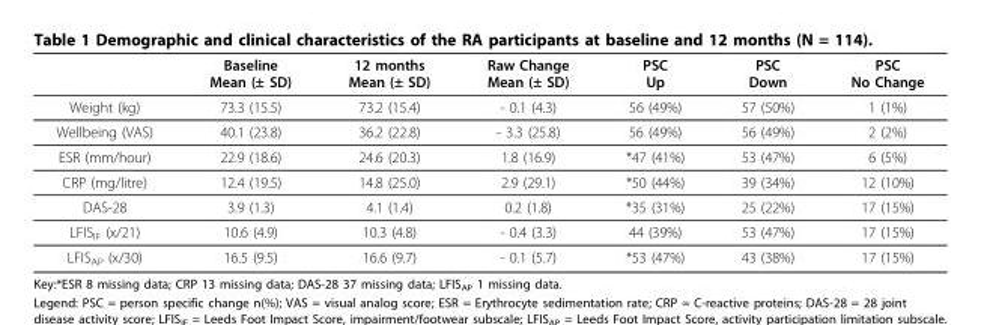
<table><thead><tr><td></td><td>Baseline Mean (± SD)</td><td>12 months Mean (± SD)</td><td>Raw Change Mean (± SD)</td><td>PSC Up</td><td>PSC Down</td><td>PSC No Change</td></tr></thead><tbody><tr><td>Weight (kg)</td><td>73.3 (15.5)</td><td>73.2 (15.4)</td><td>- 0.1 (4.3)</td><td>56 (49%)</td><td>57 (50%)</td><td>1 (1%)</td></tr><tr><td>Wellbeing (VAS)</td><td>40.1 (23.8)</td><td>36.2 (22.8)</td><td>- 3.3 (25.8)</td><td>56 (49%)</td><td>56 (49%)</td><td>2 (2%)</td></tr><tr><td>ESR (mm/hour)</td><td>22.9 (18.6)</td><td>24.6 (20.3)</td><td>1.8 (16.9)</td><td>*47 (41%)</td><td>53 (47%)</td><td>6 (5%)</td></tr><tr><td>CRP (mg/litre)</td><td>12.4 (19.5)</td><td>14.8 (25.0)</td><td>2.9 (29.1)</td><td>*50 (44%)</td><td>39 (34%)</td><td>12 (10%)</td></tr><tr><td>DAS-28</td><td>3.9 (1.3)</td><td>4.1 (1.4)</td><td>0.2 (1.8)</td><td>*35 (31%)</td><td>25 (22%)</td><td>17 (15%)</td></tr><tr><td>LFIS<sub>IF</sub> (x/21)</td><td>10.6 (4.9)</td><td>10.3 (4.8)</td><td>- 0.4 (3.3)</td><td>44 (39%)</td><td>53 (47%)</td><td>17 (15%)</td></tr><tr><td>LFIS<sub>AP</sub> (x/30)</td><td>16.5 (9.5)</td><td>16.6 (9.7)</td><td>- 0.1 (5.7)</td><td>*53 (47%)</td><td>43 (38%)</td><td>17 (15%)</td></tr></tbody></table>